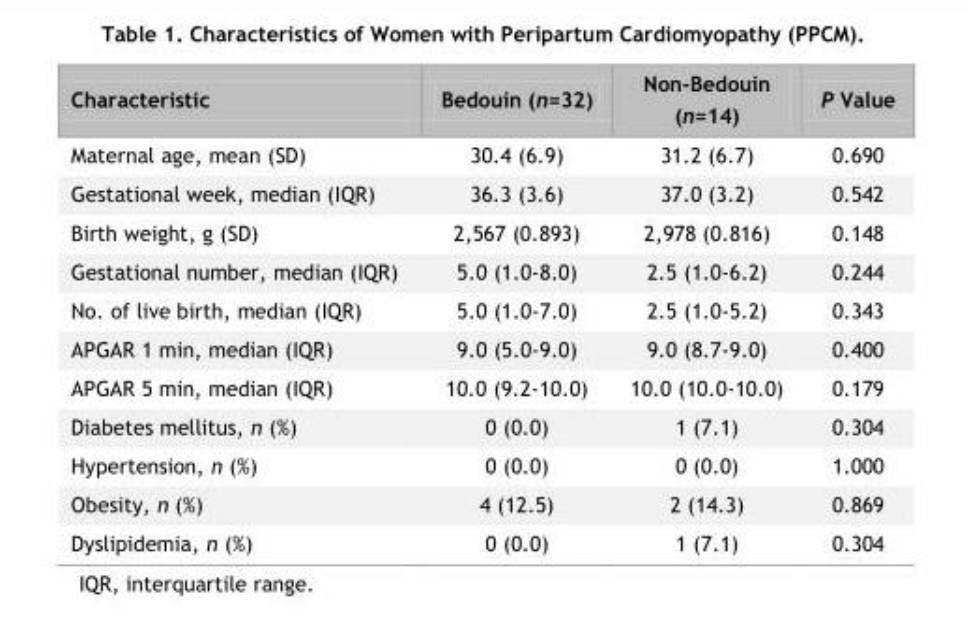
<table><thead><tr><td>Characteristic</td><td>Bedouin (n=32)</td><td>Non-Bedouin (n=14)</td><td>P Value</td></tr></thead><tbody><tr><td>Maternal age, mean (SD)</td><td>30.4 (6.9)</td><td>31.2 (6.7)</td><td>0.690</td></tr><tr><td>Gestational week, median (IQR)</td><td>36.3 (3.6)</td><td>37.0 (3.2)</td><td>0.542</td></tr><tr><td>Birth weight, g (SD)</td><td>2,567 (0.893)</td><td>2,978 (0.816)</td><td>0.148</td></tr><tr><td>Gestational number, median (IQR)</td><td>5.0 (1.0-8.0)</td><td>2.5 (1.0-6.2)</td><td>0.244</td></tr><tr><td>No. of live birth, median (IQR)</td><td>5.0 (1.0-7.0)</td><td>2.5 (1.0-5.2)</td><td>0.343</td></tr><tr><td>APGAR 1 min, median (IQR)</td><td>9.0 (5.0-9.0)</td><td>9.0 (8.7-9.0)</td><td>0.400</td></tr><tr><td>APGAR 5 min, median (IQR)</td><td>10.0 (9.2-10.0)</td><td>10.0 (10.0-10.0)</td><td>0.179</td></tr><tr><td>Diabetes mellitus, n (%)</td><td>0 (0.0)</td><td>1 (7.1)</td><td>0.304</td></tr><tr><td>Hypertension, n (%)</td><td>0 (0.0)</td><td>0 (0.0)</td><td>1.000</td></tr><tr><td>Obesity, n (%)</td><td>4 (12.5)</td><td>2 (14.3)</td><td>0.869</td></tr><tr><td>Dyslipidemia, n (%)</td><td>0 (0.0)</td><td>1 (7.1)</td><td>0.304</td></tr></tbody></table>